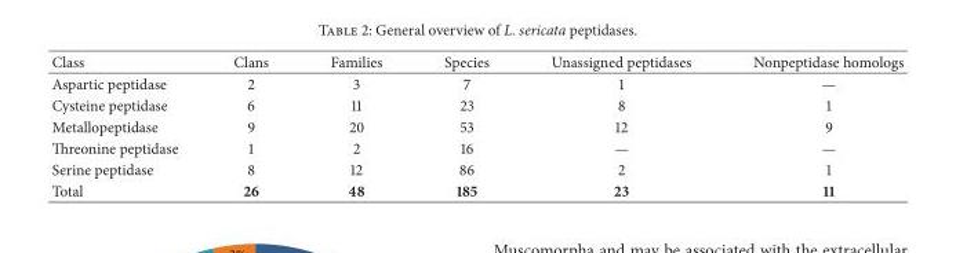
<table><thead><tr><td>Class</td><td>Clans</td><td>Families</td><td>Species</td><td>Unassigned peptidases</td><td>Nonpeptidase homologs</td></tr></thead><tbody><tr><td>Aspartic peptidase</td><td>2</td><td>3</td><td>7</td><td>1</td><td>—</td></tr><tr><td>Cysteine peptidase</td><td>6</td><td>11</td><td>23</td><td>8</td><td>1</td></tr><tr><td>Metallopeptidase</td><td>9</td><td>20</td><td>53</td><td>12</td><td>9</td></tr><tr><td>Threonine peptidase</td><td>1</td><td>2</td><td>16</td><td>—</td><td>—</td></tr><tr><td>Serine peptidase</td><td>8</td><td>12</td><td>86</td><td>2</td><td>1</td></tr><tr><td>Total</td><td>26</td><td>48</td><td>185</td><td>23</td><td>11</td></tr></tbody></table>